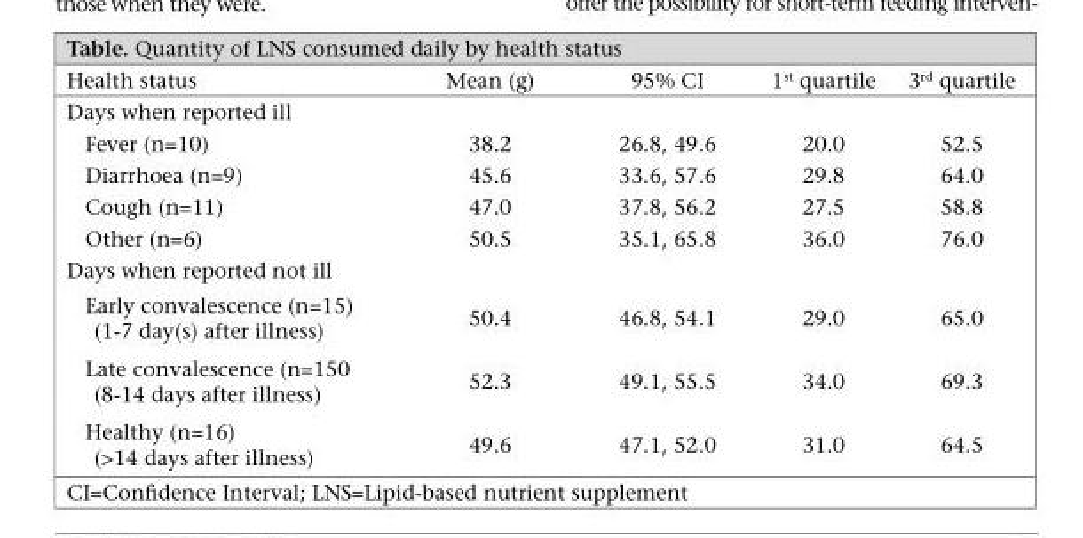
<table><thead><tr><td>Health status</td><td>Mean (g)</td><td>95% CI</td><td>1st quartile</td><td>3rd quartile</td></tr></thead><tbody><tr><td colspan="5">Days when reported ill</td></tr><tr><td>Fever (n=10)</td><td>38.2</td><td>26.8, 49.6</td><td>20.0</td><td>52.5</td></tr><tr><td>Diarrhoea (n=9)</td><td>45.6</td><td>33.6, 57.6</td><td>29.8</td><td>64.0</td></tr><tr><td>Cough (n=11)</td><td>47.0</td><td>37.8, 56.2</td><td>27.5</td><td>58.8</td></tr><tr><td>Other (n=6)</td><td>50.5</td><td>35.1, 65.8</td><td>36.0</td><td>76.0</td></tr><tr><td colspan="5">Days when reported not ill</td></tr><tr><td>Early convalescence (n=15) (1-7 day(s) after illness)</td><td>50.4</td><td>46.8, 54.1</td><td>29.0</td><td>65.0</td></tr><tr><td>Late convalescence (n=150 (8-14 days after illness)</td><td>52.3</td><td>49.1, 55.5</td><td>34.0</td><td>69.3</td></tr><tr><td>Healthy (n=16) (&gt;14 days after illness)</td><td>49.6</td><td>47.1, 52.0</td><td>31.0</td><td>64.5</td></tr></tbody></table>